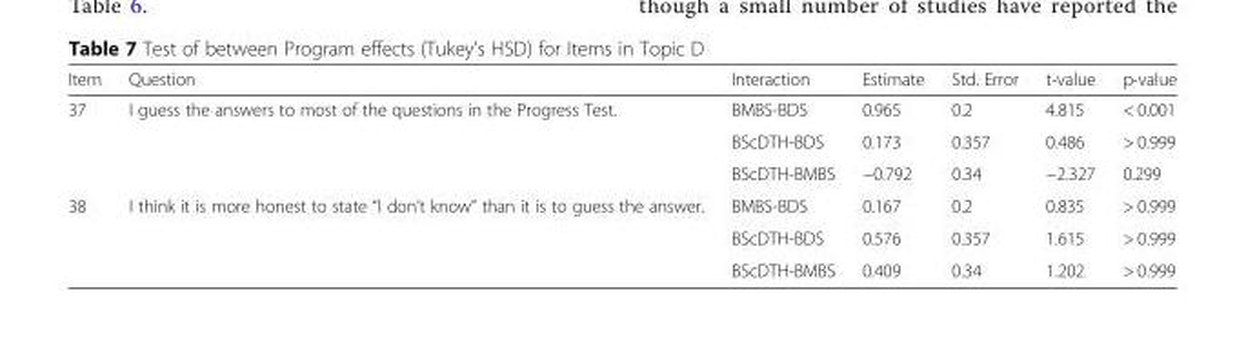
<table><thead><tr><td>Item</td><td>Question</td><td>Interaction</td><td>Estimate</td><td>Std. Error</td><td>t-value</td><td>p-value</td></tr></thead><tbody><tr><td rowspan="3">37</td><td rowspan="3">I guess the answers to most of the questions in the Progress Test.</td><td>BMBS-BDS</td><td>0.965</td><td>0.2</td><td>4.815</td><td>&lt; 0.001</td></tr><tr><td>BScDTH-BDS</td><td>0.173</td><td>0.357</td><td>0.486</td><td>&gt; 0.999</td></tr><tr><td>BScDTH-BMBS</td><td>−0.792</td><td>0.34</td><td>−2.327</td><td>0.299</td></tr><tr><td rowspan="3">38</td><td rowspan="3">I think it is more honest to state “I don’t know” than it is to guess the answer.</td><td>BMBS-BDS</td><td>0.167</td><td>0.2</td><td>0.835</td><td>&gt; 0.999</td></tr><tr><td>BScDTH-BDS</td><td>0.576</td><td>0.357</td><td>1.615</td><td>&gt; 0.999</td></tr><tr><td>BScDTH-BMBS</td><td>0.409</td><td>0.34</td><td>1.202</td><td>&gt; 0.999</td></tr></tbody></table>